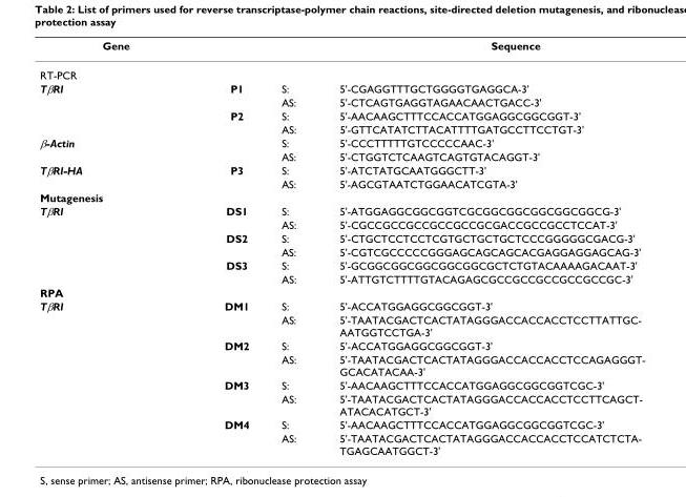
<table><thead><tr><td>Gene</td><td></td><td></td><td>Sequence</td></tr></thead><tbody><tr><td colspan="4">RT-PCR</td></tr><tr><td rowspan="4">TβRI</td><td>P1</td><td>S:</td><td>5&#x27;-CGAGGTTTGCTGGGGTGAGGCA-3&#x27;</td></tr><tr><td></td><td>AS:</td><td>5&#x27;-CTCAGTGAGGTAGAACAACTGACC-3&#x27;</td></tr><tr><td>P2</td><td>S:</td><td>5&#x27;-AACAAGCTTTCCACCATGGAGGCGGCGGT-3&#x27;</td></tr><tr><td></td><td>AS:</td><td>5&#x27;-GTTCATATCTTACATTTTGATGCCTTCCTGT-3&#x27;</td></tr><tr><td rowspan="2">β-Actin</td><td></td><td>S:</td><td>5&#x27;-CCCTTTTTGTCCCCCAAC-3&#x27;</td></tr><tr><td></td><td>AS:</td><td>5&#x27;-CTGGTCTCAAGTCAGTGTACAGGT-3&#x27;</td></tr><tr><td rowspan="2">TβRI-HA</td><td>P3</td><td>S:</td><td>5&#x27;-ATCTATGCAATGGGCTT-3&#x27;</td></tr><tr><td></td><td>AS:</td><td>5&#x27;-AGCGTAATCTGGAACATCGTA-3&#x27;</td></tr><tr><td colspan="4">Mutagenesis</td></tr><tr><td rowspan="6">TβRI</td><td>DS1</td><td>S:</td><td>5&#x27;-ATGGAGGCGGCGGTCGCGGCGGCGGCGGCGGCG-3&#x27;</td></tr><tr><td></td><td>AS:</td><td>5&#x27;-CGCCGCCGCCGCCGCCGCGACCGCCGCCTCCAT-3&#x27;</td></tr><tr><td>DS2</td><td>S:</td><td>5&#x27;-CTGCTCCTCCTCGTGCTGCTGCTCCCGGGGGCGACG-3&#x27;</td></tr><tr><td></td><td>AS:</td><td>5&#x27;-CGTCGCCCCCGGGAGCAGCAGCACGAGGAGGAGCAG-3&#x27;</td></tr><tr><td>DS3</td><td>S:</td><td>5&#x27;-GCGGCGGCGGCGGCGGCGCTCTGTACAAAAGACAAT-3&#x27;</td></tr><tr><td></td><td>AS:</td><td>5&#x27;-ATTGTCTTTTGTACAGAGCGCCGCCGCCGCCGCCGC-3&#x27;</td></tr><tr><td colspan="4">RPA</td></tr><tr><td rowspan="8">TβRI</td><td>DM1</td><td>S:</td><td>5&#x27;-ACCATGGAGGCGGCGGT-3&#x27;</td></tr><tr><td></td><td>AS:</td><td>5&#x27;-TAATACGACTCACTATAGGGACCACCACCTCCTTATTGC- AATGGTCCTGA-3&#x27;</td></tr><tr><td>DM2</td><td>S:</td><td>5&#x27;-ACCATGGAGGCGGCGGT-3&#x27;</td></tr><tr><td></td><td>AS:</td><td>5&#x27;-TAATACGACTCACTATAGGGACCACCACCTCCAGAGGGT- GCACATACAA-3&#x27;</td></tr><tr><td>DM3</td><td>S:</td><td>5&#x27;-AACAAGCTTTCCACCATGGAGGCGGCGGTCGC-3&#x27;</td></tr><tr><td></td><td>AS:</td><td>5&#x27;-TAATACGACTCACTATAGGGACCACCACCTCCTTCAGCT- ATACACATGCT-3&#x27;</td></tr><tr><td>DM4</td><td>S:</td><td>5&#x27;-AACAAGCTTTCCACCATGGAGGCGGCGGTCGC-3&#x27;</td></tr><tr><td></td><td>AS:</td><td>5&#x27;-TAATACGACTCACTATAGGGACCACCACCTCCATCTCTA- TGAGCAATGGCT-3&#x27;</td></tr></tbody></table>